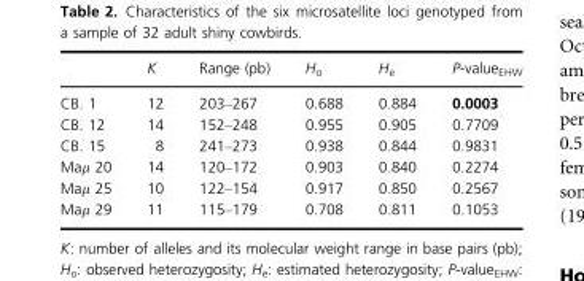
<table><thead><tr><td></td><td>K</td><td>Range (pb)</td><td>H<sub>o</sub></td><td>H<sub>e</sub></td><td>P-value<sub>EHW</sub></td></tr></thead><tbody><tr><td>CB. 1</td><td>12</td><td>203–267</td><td>0.688</td><td>0.884</td><td>0.0003</td></tr><tr><td>CB. 12</td><td>14</td><td>152–248</td><td>0.955</td><td>0.905</td><td>0.7709</td></tr><tr><td>CB. 15</td><td>8</td><td>241–273</td><td>0.938</td><td>0.844</td><td>0.9831</td></tr><tr><td>Maμ 20</td><td>14</td><td>120–172</td><td>0.903</td><td>0.840</td><td>0.2274</td></tr><tr><td>Maμ 25</td><td>10</td><td>122–154</td><td>0.917</td><td>0.850</td><td>0.2567</td></tr><tr><td>Maμ 29</td><td>11</td><td>115–179</td><td>0.708</td><td>0.811</td><td>0.1053</td></tr></tbody></table>